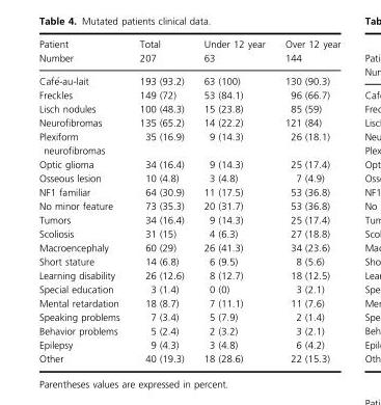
<table><thead><tr><td rowspan="2">Patient Number</td><td rowspan="2">Total 207</td><td rowspan="2">Under 12 year 63</td><td rowspan="2">Over 12 year 144</td></tr><tr></tr></thead><tbody><tr><td>Caf�e-au-lait</td><td>193 (93.2)</td><td>63 (100)</td><td>130 (90.3)</td></tr><tr><td>Freckles</td><td>149 (72)</td><td>53 (84.1)</td><td>96 (66.7)</td></tr><tr><td>Lisch nodules</td><td>100 (48.3)</td><td>15 (23.8)</td><td>85 (59)</td></tr><tr><td>Neurofibromas</td><td>135 (65.2)</td><td>14 (22.2)</td><td>121 (84)</td></tr><tr><td>Plexiform neurofibromas</td><td>35 (16.9)</td><td>9 (14.3)</td><td>26 (18.1)</td></tr><tr><td>Optic glioma</td><td>34 (16.4)</td><td>9 (14.3)</td><td>25 (17.4)</td></tr><tr><td>Osseous lesion</td><td>10 (4.8)</td><td>3 (4.8)</td><td>7 (4.9)</td></tr><tr><td>NF1 familiar</td><td>64 (30.9)</td><td>11 (17.5)</td><td>53 (36.8)</td></tr><tr><td>No minor feature</td><td>73 (35.3)</td><td>20 (31.7)</td><td>53 (36.8)</td></tr><tr><td>Tumors</td><td>34 (16.4)</td><td>9 (14.3)</td><td>25 (17.4)</td></tr><tr><td>Scoliosis</td><td>31 (15)</td><td>4 (6.3)</td><td>27 (18.8)</td></tr><tr><td>Macroencephaly</td><td>60 (29)</td><td>26 (41.3)</td><td>34 (23.6)</td></tr><tr><td>Short stature</td><td>14 (6.8)</td><td>6 (9.5)</td><td>8 (5.6)</td></tr><tr><td>Learning disability</td><td>26 (12.6)</td><td>8 (12.7)</td><td>18 (12.5)</td></tr><tr><td>Special education</td><td>3 (1.4)</td><td>0 (0)</td><td>3 (2.1)</td></tr><tr><td>Mental retardation</td><td>18 (8.7)</td><td>7 (11.1)</td><td>11 (7.6)</td></tr><tr><td>Speaking problems</td><td>7 (3.4)</td><td>5 (7.9)</td><td>2 (1.4)</td></tr><tr><td>Behavior problems</td><td>5 (2.4)</td><td>2 (3.2)</td><td>3 (2.1)</td></tr><tr><td>Epilepsy</td><td>9 (4.3)</td><td>3 (4.8)</td><td>6 (4.2)</td></tr><tr><td>Other</td><td>40 (19.3)</td><td>18 (28.6)</td><td>22 (15.3)</td></tr></tbody></table>